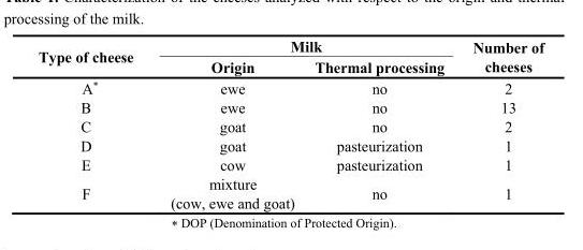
<table><thead><tr><td rowspan="2">Type of cheese</td><td colspan="2">Milk</td><td rowspan="2">Number of cheeses</td></tr><tr><td>Origin</td><td>Thermal processing</td></tr></thead><tbody><tr><td>A*</td><td>ewe</td><td>no</td><td>2</td></tr><tr><td>B</td><td>ewe</td><td>no</td><td>13</td></tr><tr><td>C</td><td>goat</td><td>no</td><td>2</td></tr><tr><td>D</td><td>goat</td><td>pasteurization</td><td>1</td></tr><tr><td>E</td><td>cow</td><td>pasteurization</td><td>1</td></tr><tr><td>F</td><td>mixture (cow, ewe and goat)</td><td>no</td><td>1</td></tr></tbody></table>